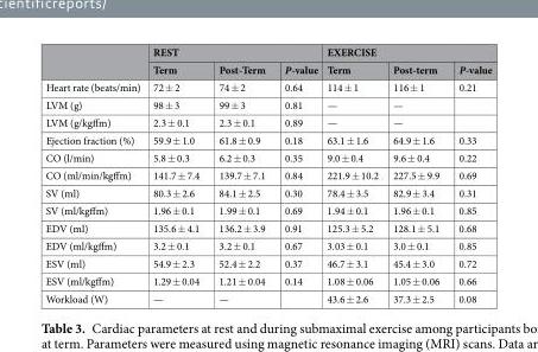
<table><thead><tr><td rowspan="2"></td><td colspan="3">REST</td><td colspan="3">EXERCISE</td></tr><tr><td>Term</td><td>Post-Term</td><td>P-value</td><td>Term</td><td>Post-term</td><td>P-value</td></tr></thead><tbody><tr><td>Heart rate (beats/min)</td><td>72 ± 2</td><td>74 ± 2</td><td>0.64</td><td>114 ± 1</td><td>116 ± 1</td><td>0.21</td></tr><tr><td>LVM (g)</td><td>98 ± 3</td><td>99 ± 3</td><td>0.81</td><td>—</td><td>—</td><td></td></tr><tr><td>LVM (g/kgffm)</td><td>2.3 ± 0.1</td><td>2.3 ± 0.1</td><td>0.89</td><td>—</td><td>—</td><td></td></tr><tr><td>Ejection fraction (%)</td><td>59.9 ± 1.0</td><td>61.8 ± 0.9</td><td>0.18</td><td>63.1 ± 1.6</td><td>64.9 ± 1.6</td><td>0.33</td></tr><tr><td>CO (l/min)</td><td>5.8 ± 0.3</td><td>6.2 ± 0.3</td><td>0.35</td><td>9.0 ± 0.4</td><td>9.6 ± 0.4</td><td>0.22</td></tr><tr><td>CO (ml/min/kgffm)</td><td>141.7 ± 7.4</td><td>139.7 ± 7.1</td><td>0.84</td><td>221.9 ± 10.2</td><td>227.5 ± 9.9</td><td>0.69</td></tr><tr><td>SV (ml)</td><td>80.3 ± 2.6</td><td>84.1 ± 2.5</td><td>0.30</td><td>78.4 ± 3.5</td><td>82.9 ± 3.4</td><td>0.31</td></tr><tr><td>SV (ml/kgffm)</td><td>1.96 ± 0.1</td><td>1.99 ± 0.1</td><td>0.69</td><td>1.94 ± 0.1</td><td>1.96 ± 0.1</td><td>0.85</td></tr><tr><td>EDV (ml)</td><td>135.6 ± 4.1</td><td>136.2 ± 3.9</td><td>0.91</td><td>125.3 ± 5.2</td><td>128.1 ± 5.1</td><td>0.68</td></tr><tr><td>EDV (ml/kgffm)</td><td>3.2 ± 0.1</td><td>3.2 ± 0.1</td><td>0.67</td><td>3.03 ± 0.1</td><td>3.0 ± 0.1</td><td>0.85</td></tr><tr><td>ESV (ml)</td><td>54.9 ± 2.3</td><td>52.4 ± 2.2</td><td>0.37</td><td>46.7 ± 3.1</td><td>45.4 ± 3.0</td><td>0.72</td></tr><tr><td>ESV (ml/kgffm)</td><td>1.29 ± 0.04</td><td>1.21 ± 0.04</td><td>0.14</td><td>1.08 ± 0.06</td><td>1.05 ± 0.06</td><td>0.66</td></tr><tr><td>Workload (W)</td><td>—</td><td>—</td><td></td><td>43.6 ± 2.6</td><td>37.3 ± 2.5</td><td>0.08</td></tr></tbody></table>